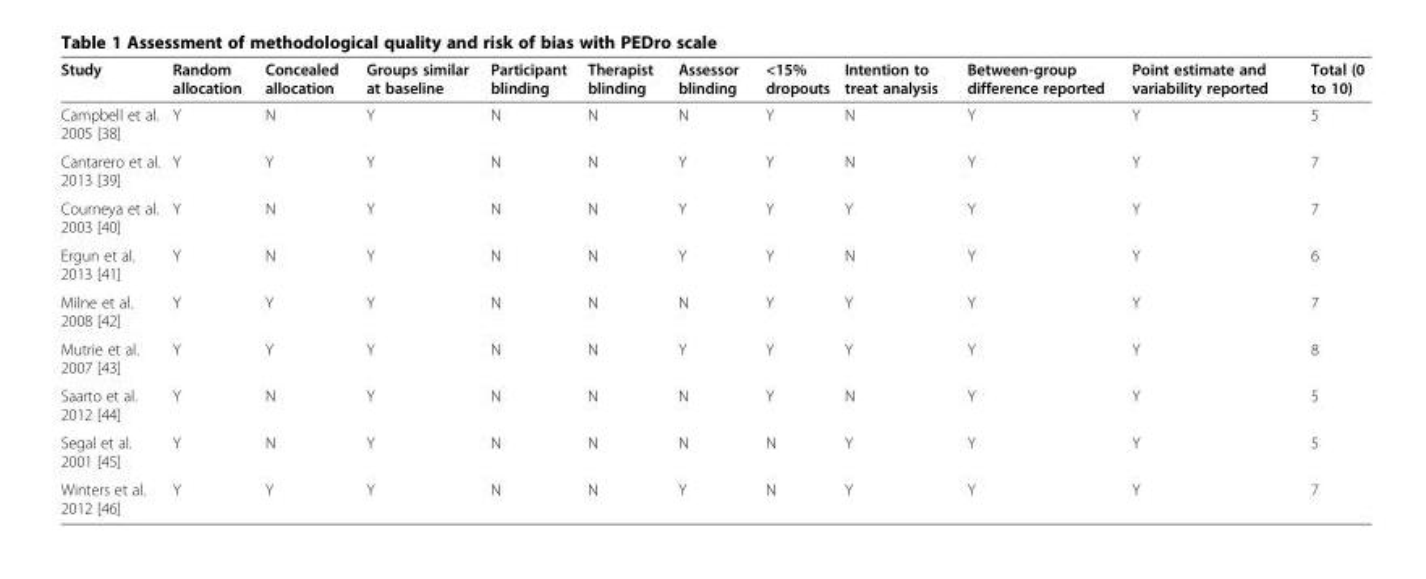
<table><thead><tr><td>Study</td><td>Random allocation</td><td>Concealed allocation</td><td>Groups similar at baseline</td><td>Participant blinding</td><td>Therapist blinding</td><td>Assessor blinding</td><td>&lt;15% dropouts</td><td>Intention to treat analysis</td><td>Between-group difference reported</td><td>Point estimate and variability reported</td><td>Total (0 to 10)</td></tr></thead><tbody><tr><td>Campbell et al. 2005 [38]</td><td>Y</td><td>N</td><td>Y</td><td>N</td><td>N</td><td>N</td><td>Y</td><td>N</td><td>Y</td><td>Y</td><td>5</td></tr><tr><td>Cantarero et al. 2013 [39]</td><td>Y</td><td>Y</td><td>Y</td><td>N</td><td>N</td><td>Y</td><td>Y</td><td>N</td><td>Y</td><td>Y</td><td>7</td></tr><tr><td>Courneya et al. 2003 [40]</td><td>Y</td><td>N</td><td>Y</td><td>N</td><td>N</td><td>Y</td><td>Y</td><td>Y</td><td>Y</td><td>Y</td><td>7</td></tr><tr><td>Ergun et al. 2013 [41]</td><td>Y</td><td>N</td><td>Y</td><td>N</td><td>N</td><td>Y</td><td>Y</td><td>N</td><td>Y</td><td>Y</td><td>6</td></tr><tr><td>Milne et al. 2008 [42]</td><td>Y</td><td>Y</td><td>Y</td><td>N</td><td>N</td><td>N</td><td>Y</td><td>Y</td><td>Y</td><td>Y</td><td>7</td></tr><tr><td>Mutrie et al. 2007 [43]</td><td>Y</td><td>Y</td><td>Y</td><td>N</td><td>N</td><td>Y</td><td>Y</td><td>Y</td><td>Y</td><td>Y</td><td>8</td></tr><tr><td>Saarto et al. 2012 [44]</td><td>Y</td><td>N</td><td>Y</td><td>N</td><td>N</td><td>N</td><td>Y</td><td>N</td><td>Y</td><td>Y</td><td>5</td></tr><tr><td>Segal et al. 2001 [45]</td><td>Y</td><td>N</td><td>Y</td><td>N</td><td>N</td><td>N</td><td>N</td><td>Y</td><td>Y</td><td>Y</td><td>5</td></tr><tr><td>Winters et al. 2012 [46]</td><td>Y</td><td>Y</td><td>Y</td><td>N</td><td>N</td><td>Y</td><td>N</td><td>Y</td><td>Y</td><td>Y</td><td>7</td></tr></tbody></table>